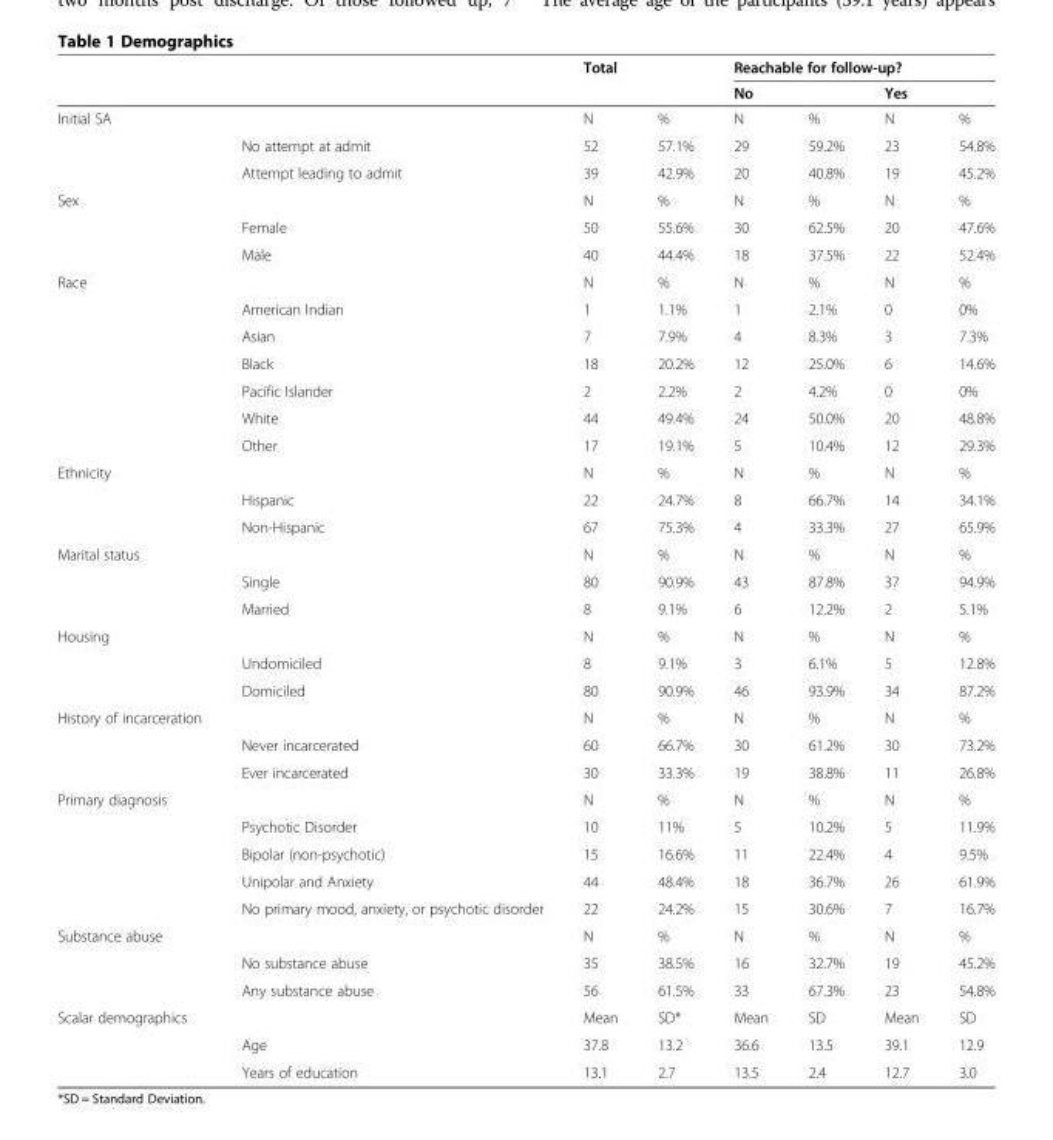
<table><thead><tr><td rowspan="3">Initial SA</td><td rowspan="3"></td><td rowspan="2" colspan="2">Total</td><td colspan="4">Reachable for follow-up?</td></tr><tr><td colspan="2">No</td><td colspan="2">Yes</td></tr><tr><td>N</td><td>%</td><td>N</td><td>%</td><td>N</td><td>%</td></tr></thead><tbody><tr><td></td><td>No attempt at admit</td><td>52</td><td>57.1%</td><td>29</td><td>59.2%</td><td>23</td><td>54.8%</td></tr><tr><td></td><td>Attempt leading to admit</td><td>39</td><td>42.9%</td><td>20</td><td>40.8%</td><td>19</td><td>45.2%</td></tr><tr><td rowspan="3">Sex</td><td></td><td>N</td><td>%</td><td>N</td><td>%</td><td>N</td><td>%</td></tr><tr><td>Female</td><td>50</td><td>55.6%</td><td>30</td><td>62.5%</td><td>20</td><td>47.6%</td></tr><tr><td>Male</td><td>40</td><td>44.4%</td><td>18</td><td>37.5%</td><td>22</td><td>52.4%</td></tr><tr><td rowspan="7">Race</td><td></td><td>N</td><td>%</td><td>N</td><td>%</td><td>N</td><td>%</td></tr><tr><td>American Indian</td><td>1</td><td>1.1%</td><td>1</td><td>2.1%</td><td>0</td><td>0%</td></tr><tr><td>Asian</td><td>7</td><td>7.9%</td><td>4</td><td>8.3%</td><td>3</td><td>7.3%</td></tr><tr><td>Black</td><td>18</td><td>20.2%</td><td>12</td><td>25.0%</td><td>6</td><td>14.6%</td></tr><tr><td>Pacific Islander</td><td>2</td><td>2.2%</td><td>2</td><td>4.2%</td><td>0</td><td>0%</td></tr><tr><td>White</td><td>44</td><td>49.4%</td><td>24</td><td>50.0%</td><td>20</td><td>48.8%</td></tr><tr><td>Other</td><td>17</td><td>19.1%</td><td>5</td><td>10.4%</td><td>12</td><td>29.3%</td></tr><tr><td rowspan="3">Ethnicity</td><td></td><td>N</td><td>%</td><td>N</td><td>%</td><td>N</td><td>%</td></tr><tr><td>Hispanic</td><td>22</td><td>24.7%</td><td>8</td><td>66.7%</td><td>14</td><td>34.1%</td></tr><tr><td>Non-Hispanic</td><td>67</td><td>75.3%</td><td>4</td><td>33.3%</td><td>27</td><td>65.9%</td></tr><tr><td rowspan="3">Marital status</td><td></td><td>N</td><td>%</td><td>N</td><td>%</td><td>N</td><td>%</td></tr><tr><td>Single</td><td>80</td><td>90.9%</td><td>43</td><td>87.8%</td><td>37</td><td>94.9%</td></tr><tr><td>Married</td><td>8</td><td>9.1%</td><td>6</td><td>12.2%</td><td>2</td><td>5.1%</td></tr><tr><td rowspan="3">Housing</td><td></td><td>N</td><td>%</td><td>N</td><td>%</td><td>N</td><td>%</td></tr><tr><td>Undomiciled</td><td>8</td><td>9.1%</td><td>3</td><td>6.1%</td><td>5</td><td>12.8%</td></tr><tr><td>Domiciled</td><td>80</td><td>90.9%</td><td>46</td><td>93.9%</td><td>34</td><td>87.2%</td></tr><tr><td rowspan="3">History of incarceration</td><td></td><td>N</td><td>%</td><td>N</td><td>%</td><td>N</td><td>%</td></tr><tr><td>Never incarcerated</td><td>60</td><td>66.7%</td><td>30</td><td>61.2%</td><td>30</td><td>73.2%</td></tr><tr><td>Ever incarcerated</td><td>30</td><td>33.3%</td><td>19</td><td>38.8%</td><td>11</td><td>26.8%</td></tr><tr><td rowspan="5">Primary diagnosis</td><td></td><td>N</td><td>%</td><td>N</td><td>%</td><td>N</td><td>%</td></tr><tr><td>Psychotic Disorder</td><td>10</td><td>11%</td><td>5</td><td>10.2%</td><td>5</td><td>11.9%</td></tr><tr><td>Bipolar (non-psychotic)</td><td>15</td><td>16.6%</td><td>11</td><td>22.4%</td><td>4</td><td>9.5%</td></tr><tr><td>Unipolar and Anxiety</td><td>44</td><td>48.4%</td><td>18</td><td>36.7%</td><td>26</td><td>61.9%</td></tr><tr><td>No primary mood, anxiety, or psychotic disorder</td><td>22</td><td>24.2%</td><td>15</td><td>30.6%</td><td>7</td><td>16.7%</td></tr><tr><td rowspan="3">Substance abuse</td><td></td><td>N</td><td>%</td><td>N</td><td>%</td><td>N</td><td>%</td></tr><tr><td>No substance abuse</td><td>35</td><td>38.5%</td><td>16</td><td>32.7%</td><td>19</td><td>45.2%</td></tr><tr><td>Any substance abuse</td><td>56</td><td>61.5%</td><td>33</td><td>67.3%</td><td>23</td><td>54.8%</td></tr><tr><td rowspan="3">Scalar demographics</td><td></td><td>Mean</td><td>SD*</td><td>Mean</td><td>SD</td><td>Mean</td><td>SD</td></tr><tr><td>Age</td><td>37.8</td><td>13.2</td><td>36.6</td><td>13.5</td><td>39.1</td><td>12.9</td></tr><tr><td>Years of education</td><td>13.1</td><td>2.7</td><td>13.5</td><td>2.4</td><td>12.7</td><td>3.0</td></tr></tbody></table>